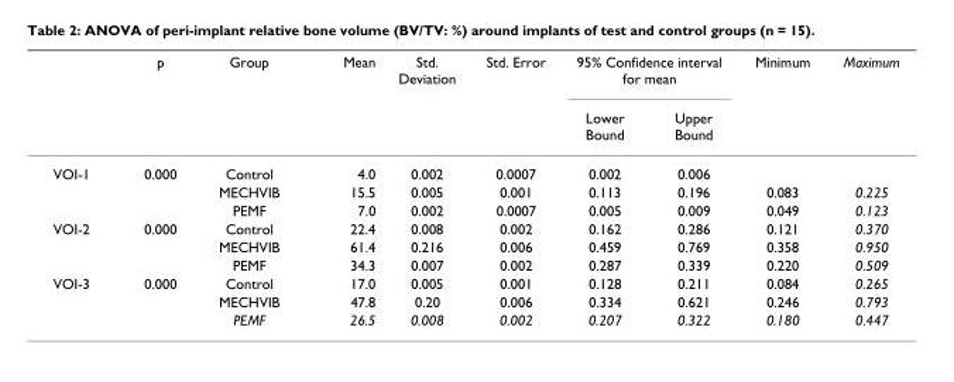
<table><thead><tr><td rowspan="2"></td><td rowspan="2">p</td><td rowspan="2">Group</td><td rowspan="2">Mean</td><td rowspan="2">Std. Deviation</td><td rowspan="2">Std. Error</td><td colspan="2">95% Confidence interval for mean</td><td rowspan="2">Minimum</td><td rowspan="2">Maximum</td></tr><tr><td>Lower Bound</td><td>Upper Bound</td></tr></thead><tbody><tr><td rowspan="3">VOI-1</td><td>0.000</td><td>Control</td><td>4.0</td><td>0.002</td><td>0.0007</td><td>0.002</td><td>0.006</td><td></td><td></td></tr><tr><td></td><td>MECHVIB</td><td>15.5</td><td>0.005</td><td>0.001</td><td>0.113</td><td>0.196</td><td>0.083</td><td>0.225</td></tr><tr><td></td><td>PEMF</td><td>7.0</td><td>0.002</td><td>0.0007</td><td>0.005</td><td>0.009</td><td>0.049</td><td>0.123</td></tr><tr><td rowspan="3">VOI-2</td><td>0.000</td><td>Control</td><td>22.4</td><td>0.008</td><td>0.002</td><td>0.162</td><td>0.286</td><td>0.121</td><td>0.370</td></tr><tr><td></td><td>MECHVIB</td><td>61.4</td><td>0.216</td><td>0.006</td><td>0.459</td><td>0.769</td><td>0.358</td><td>0.950</td></tr><tr><td></td><td>PEMF</td><td>34.3</td><td>0.007</td><td>0.002</td><td>0.287</td><td>0.339</td><td>0.220</td><td>0.509</td></tr><tr><td rowspan="3">VOI-3</td><td>0.000</td><td>Control</td><td>17.0</td><td>0.005</td><td>0.001</td><td>0.128</td><td>0.211</td><td>0.084</td><td>0.265</td></tr><tr><td></td><td>MECHVIB</td><td>47.8</td><td>0.20</td><td>0.006</td><td>0.334</td><td>0.621</td><td>0.246</td><td>0.793</td></tr><tr><td></td><td>PEMF</td><td>26.5</td><td>0.008</td><td>0.002</td><td>0.207</td><td>0.322</td><td>0.180</td><td>0.447</td></tr></tbody></table>